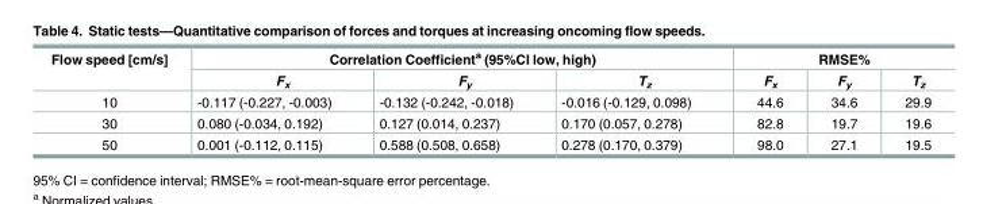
<table><thead><tr><td rowspan="2">Flow speed [cm/s]</td><td colspan="3">Correlation Coefficient<sup>a</sup> (95%CI low, high)</td><td colspan="3">RMSE%</td></tr><tr><td>F<sub>x</sub></td><td>F<sub>y</sub></td><td>T<sub>z</sub></td><td>F<sub>x</sub></td><td>F<sub>y</sub></td><td>T<sub>z</sub></td></tr></thead><tbody><tr><td>10</td><td>-0.117 (-0.227, -0.003)</td><td>-0.132 (-0.242, -0.018)</td><td>-0.016 (-0.129, 0.098)</td><td>44.6</td><td>34.6</td><td>29.9</td></tr><tr><td>30</td><td>0.080 (-0.034, 0.192)</td><td>0.127 (0.014, 0.237)</td><td>0.170 (0.057, 0.278)</td><td>82.8</td><td>19.7</td><td>19.6</td></tr><tr><td>50</td><td>0.001 (-0.112, 0.115)</td><td>0.588 (0.508, 0.658)</td><td>0.278 (0.170, 0.379)</td><td>98.0</td><td>27.1</td><td>19.5</td></tr></tbody></table>